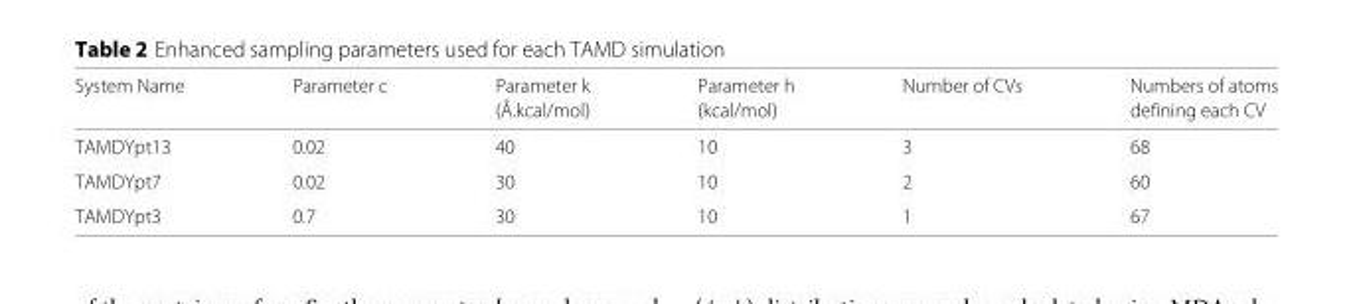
<table><thead><tr><td rowspan="2">System Name</td><td rowspan="2">Parameter c</td><td rowspan="2">Parameter k (Å.kcal/mol)</td><td rowspan="2">Parameter h (kcal/mol)</td><td rowspan="2">Number of CVs</td><td rowspan="2">Numbers of atoms defining each CV</td></tr><tr></tr></thead><tbody><tr><td>TAMDYpt13</td><td>0.02</td><td>40</td><td>10</td><td>3</td><td>68</td></tr><tr><td>TAMDYpt7</td><td>0.02</td><td>30</td><td>10</td><td>2</td><td>60</td></tr><tr><td>TAMDYpt3</td><td>0.7</td><td>30</td><td>10</td><td>1</td><td>67</td></tr></tbody></table>